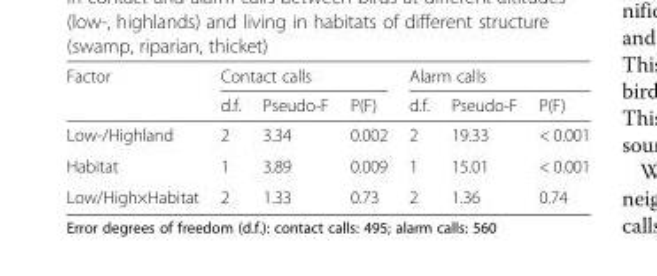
<table><thead><tr><td rowspan="2">Factor</td><td colspan="3">Contact calls</td><td colspan="3">Alarm calls</td></tr><tr><td>d.f.</td><td>Pseudo-F</td><td>P(F)</td><td>d.f.</td><td>Pseudo-F</td><td>P(F)</td></tr></thead><tbody><tr><td>Low-/Highland</td><td>2</td><td>3.34</td><td>0.002</td><td>2</td><td>19.33</td><td>&lt; 0.001</td></tr><tr><td>Habitat</td><td>1</td><td>3.89</td><td>0.009</td><td>1</td><td>15.01</td><td>&lt; 0.001</td></tr><tr><td>Low/High×Habitat</td><td>2</td><td>1.33</td><td>0.73</td><td>2</td><td>1.36</td><td>0.74</td></tr></tbody></table>